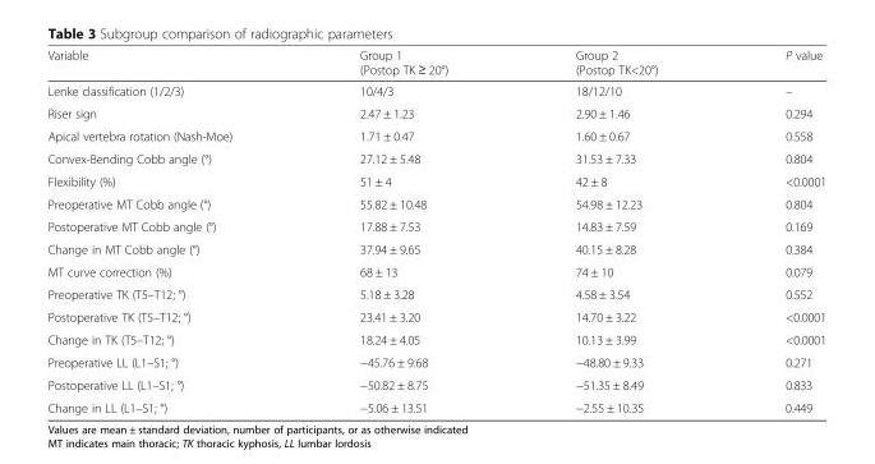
<table><thead><tr><td>Variable</td><td>Group 1 (Postop TK ≥ 20°)</td><td>Group 2 (Postop TK&lt;20°)</td><td>P value</td></tr></thead><tbody><tr><td>Lenke classification (1/2/3)</td><td>10/4/3</td><td>18/12/10</td><td>–</td></tr><tr><td>Riser sign</td><td>2.47 ± 1.23</td><td>2.90 ± 1.46</td><td>0.294</td></tr><tr><td>Apical vertebra rotation (Nash-Moe)</td><td>1.71 ± 0.47</td><td>1.60 ± 0.67</td><td>0.558</td></tr><tr><td>Convex-Bending Cobb angle (°)</td><td>27.12 ± 5.48</td><td>31.53 ± 7.33</td><td>0.804</td></tr><tr><td>Flexibility (%)</td><td>51 ± 4</td><td>42 ± 8</td><td>&lt;0.0001</td></tr><tr><td>Preoperative MT Cobb angle (°)</td><td>55.82 ± 10.48</td><td>54.98 ± 12.23</td><td>0.804</td></tr><tr><td>Postoperative MT Cobb angle (°)</td><td>17.88 ± 7.53</td><td>14.83 ± 7.59</td><td>0.169</td></tr><tr><td>Change in MT Cobb angle (°)</td><td>37.94 ± 9.65</td><td>40.15 ± 8.28</td><td>0.384</td></tr><tr><td>MT curve correction (%)</td><td>68 ± 13</td><td>74 ± 10</td><td>0.079</td></tr><tr><td>Preoperative TK (T5–T12; °)</td><td>5.18 ± 3.28</td><td>4.58 ± 3.54</td><td>0.552</td></tr><tr><td>Postoperative TK (T5–T12; °)</td><td>23.41 ± 3.20</td><td>14.70 ± 3.22</td><td>&lt;0.0001</td></tr><tr><td>Change in TK (T5–T12; °)</td><td>18.24 ± 4.05</td><td>10.13 ± 3.99</td><td>&lt;0.0001</td></tr><tr><td>Preoperative LL (L1–S1; °)</td><td>−45.76 ± 9.68</td><td>−48.80 ± 9.33</td><td>0.271</td></tr><tr><td>Postoperative LL (L1–S1; °)</td><td>−50.82 ± 8.75</td><td>−51.35 ± 8.49</td><td>0.833</td></tr><tr><td>Change in LL (L1–S1; °)</td><td>−5.06 ± 13.51</td><td>−2.55 ± 10.35</td><td>0.449</td></tr></tbody></table>